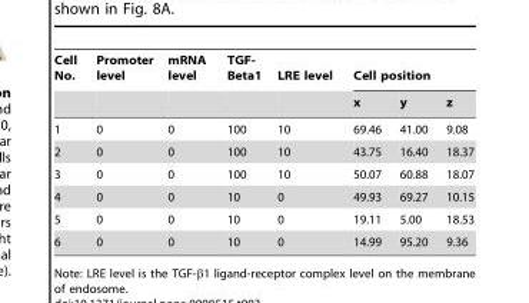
<table><thead><tr><td rowspan="2">Cell No.</td><td rowspan="2">Promoter level</td><td rowspan="2">mRNA level</td><td rowspan="2">TGF- Beta1</td><td rowspan="2">LRE level</td><td colspan="3">Cell position</td></tr><tr><td>x</td><td>y</td><td>z</td></tr></thead><tbody><tr><td>1</td><td>0</td><td>0</td><td>100</td><td>10</td><td>69.46</td><td>41.00</td><td>9.08</td></tr><tr><td>2</td><td>0</td><td>0</td><td>100</td><td>10</td><td>43.75</td><td>16.40</td><td>18.37</td></tr><tr><td>3</td><td>0</td><td>0</td><td>100</td><td>10</td><td>50.07</td><td>60.88</td><td>18.07</td></tr><tr><td>4</td><td>0</td><td>0</td><td>10</td><td>0</td><td>49.93</td><td>69.27</td><td>10.15</td></tr><tr><td>5</td><td>0</td><td>0</td><td>10</td><td>0</td><td>19.11</td><td>5.00</td><td>18.53</td></tr><tr><td>6</td><td>0</td><td>0</td><td>10</td><td>0</td><td>14.99</td><td>95.20</td><td>9.36</td></tr></tbody></table>